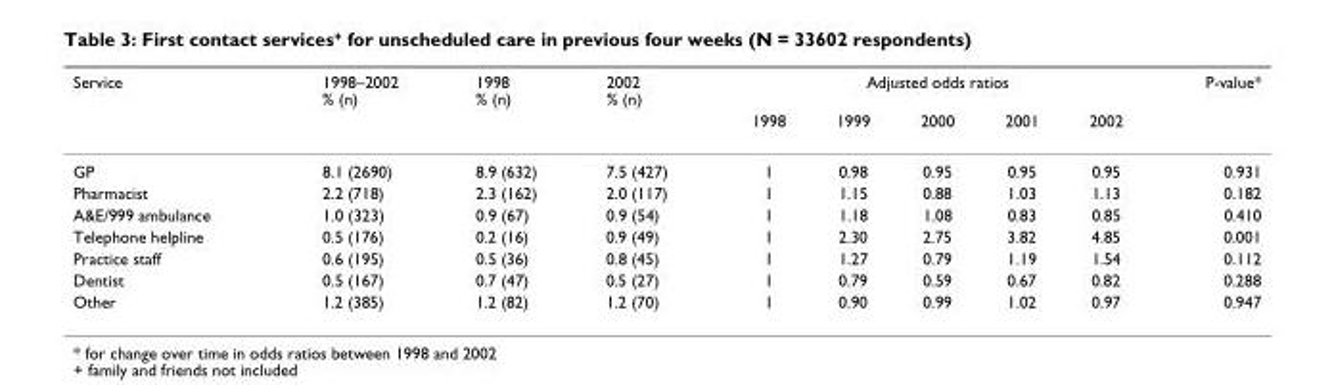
<table><thead><tr><td rowspan="2">Service</td><td rowspan="2">1998–2002 % (n)</td><td rowspan="2">1998 % (n)</td><td rowspan="2">2002 % (n)</td><td colspan="5">Adjusted odds ratios</td><td rowspan="2">P-value*</td></tr><tr><td>1998</td><td>1999</td><td>2000</td><td>2001</td><td>2002</td></tr></thead><tbody><tr><td>GP</td><td>8.1 (2690)</td><td>8.9 (632)</td><td>7.5 (427)</td><td>1</td><td>0.98</td><td>0.95</td><td>0.95</td><td>0.95</td><td>0.931</td></tr><tr><td>Pharmacist</td><td>2.2 (718)</td><td>2.3 (162)</td><td>2.0 (117)</td><td>1</td><td>1.15</td><td>0.88</td><td>1.03</td><td>1.13</td><td>0.182</td></tr><tr><td>A&amp;E/999 ambulance</td><td>1.0 (323)</td><td>0.9 (67)</td><td>0.9 (54)</td><td>1</td><td>1.18</td><td>1.08</td><td>0.83</td><td>0.85</td><td>0.410</td></tr><tr><td>Telephone helpline</td><td>0.5 (176)</td><td>0.2 (16)</td><td>0.9 (49)</td><td>1</td><td>2.30</td><td>2.75</td><td>3.82</td><td>4.85</td><td>0.001</td></tr><tr><td>Practice staff</td><td>0.6 (195)</td><td>0.5 (36)</td><td>0.8 (45)</td><td>1</td><td>1.27</td><td>0.79</td><td>1.19</td><td>1.54</td><td>0.112</td></tr><tr><td>Dentist</td><td>0.5 (167)</td><td>0.7 (47)</td><td>0.5 (27)</td><td>1</td><td>0.79</td><td>0.59</td><td>0.67</td><td>0.82</td><td>0.288</td></tr><tr><td>Other</td><td>1.2 (385)</td><td>1.2 (82)</td><td>1.2 (70)</td><td>1</td><td>0.90</td><td>0.99</td><td>1.02</td><td>0.97</td><td>0.947</td></tr></tbody></table>